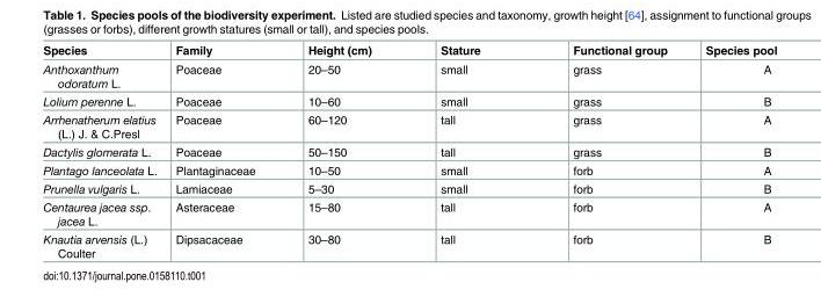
<table><thead><tr><td>Species</td><td>Family</td><td>Height (cm)</td><td>Stature</td><td>Functional group</td><td>Species pool</td></tr></thead><tbody><tr><td>Anthoxanthum odoratum L.</td><td>Poaceae</td><td>20–50</td><td>small</td><td>grass</td><td>A</td></tr><tr><td>Lolium perenne L.</td><td>Poaceae</td><td>10–60</td><td>small</td><td>grass</td><td>B</td></tr><tr><td>Arrhenatherum elatius (L.) J. &amp; C.Presl</td><td>Poaceae</td><td>60–120</td><td>tall</td><td>grass</td><td>A</td></tr><tr><td>Dactylis glomerata L.</td><td>Poaceae</td><td>50–150</td><td>tall</td><td>grass</td><td>B</td></tr><tr><td>Plantago lanceolata L.</td><td>Plantaginaceae</td><td>10–50</td><td>small</td><td>forb</td><td>A</td></tr><tr><td>Prunella vulgaris L.</td><td>Lamiaceae</td><td>5–30</td><td>small</td><td>forb</td><td>B</td></tr><tr><td>Centaurea jacea ssp. jacea L.</td><td>Asteraceae</td><td>15–80</td><td>tall</td><td>forb</td><td>A</td></tr><tr><td>Knautia arvensis (L.) Coulter</td><td>Dipsacaceae</td><td>30–80</td><td>tall</td><td>forb</td><td>B</td></tr></tbody></table>